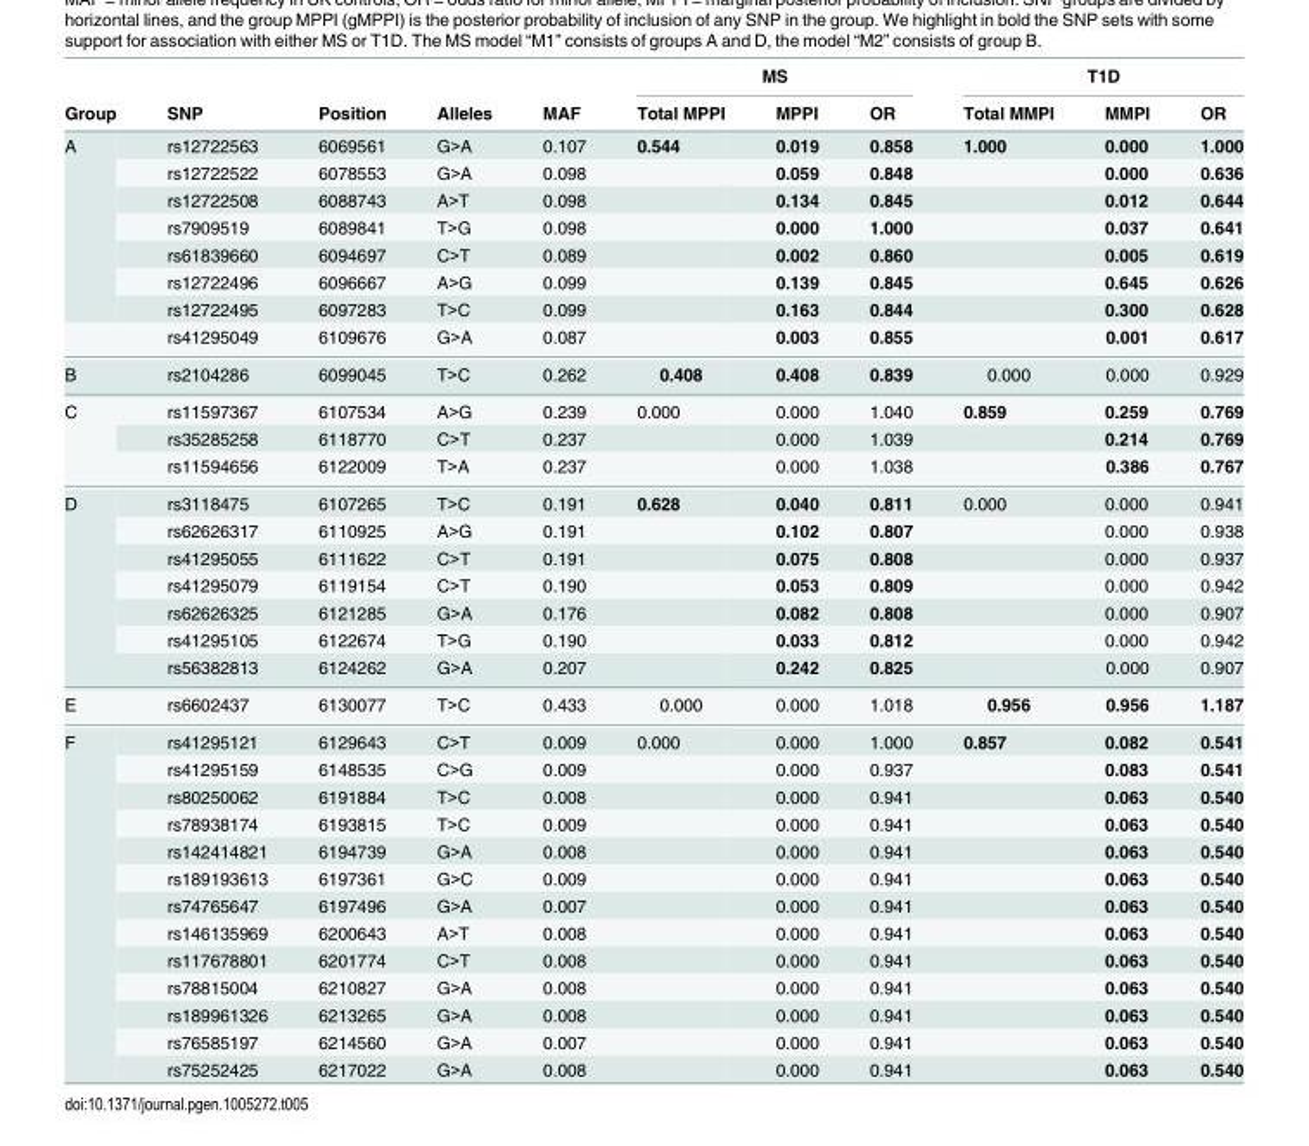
<table><thead><tr><td rowspan="2">Group</td><td rowspan="2">SNP</td><td rowspan="2">Position</td><td rowspan="2">Alleles</td><td rowspan="2">MAF</td><td colspan="3">MS</td><td colspan="3">T1D</td></tr><tr><td>Total MPPI</td><td>MPPI</td><td>OR</td><td>Total MMPI</td><td>MMPI</td><td>OR</td></tr></thead><tbody><tr><td rowspan="8">A</td><td>rs12722563</td><td>6069561</td><td>G&gt;A</td><td>0.107</td><td>0.544</td><td>0.019</td><td>0.858</td><td>1.000</td><td>0.000</td><td>1.000</td></tr><tr><td>rs12722522</td><td>6078553</td><td>G&gt;A</td><td>0.098</td><td></td><td>0.059</td><td>0.848</td><td></td><td>0.000</td><td>0.636</td></tr><tr><td>rs12722508</td><td>6088743</td><td>A&gt;T</td><td>0.098</td><td></td><td>0.134</td><td>0.845</td><td></td><td>0.012</td><td>0.644</td></tr><tr><td>rs7909519</td><td>6089841</td><td>T&gt;G</td><td>0.098</td><td></td><td>0.000</td><td>1.000</td><td></td><td>0.037</td><td>0.641</td></tr><tr><td>rs61839660</td><td>6094697</td><td>C&gt;T</td><td>0.089</td><td></td><td>0.002</td><td>0.860</td><td></td><td>0.005</td><td>0.619</td></tr><tr><td>rs12722496</td><td>6096667</td><td>A&gt;G</td><td>0.099</td><td></td><td>0.139</td><td>0.845</td><td></td><td>0.645</td><td>0.626</td></tr><tr><td>rs12722495</td><td>6097283</td><td>T&gt;C</td><td>0.099</td><td></td><td>0.163</td><td>0.844</td><td></td><td>0.300</td><td>0.628</td></tr><tr><td>rs41295049</td><td>6109676</td><td>G&gt;A</td><td>0.087</td><td></td><td>0.003</td><td>0.855</td><td></td><td>0.001</td><td>0.617</td></tr><tr><td>B</td><td>rs2104286</td><td>6099045</td><td>T&gt;C</td><td>0.262</td><td>0.408</td><td>0.408</td><td>0.839</td><td>0.000</td><td>0.000</td><td>0.929</td></tr><tr><td rowspan="3">C</td><td>rs11597367</td><td>6107534</td><td>A&gt;G</td><td>0.239</td><td>0.000</td><td>0.000</td><td>1.040</td><td>0.859</td><td>0.259</td><td>0.769</td></tr><tr><td>rs35285258</td><td>6118770</td><td>C&gt;T</td><td>0.237</td><td></td><td>0.000</td><td>1.039</td><td></td><td>0.214</td><td>0.769</td></tr><tr><td>rs11594656</td><td>6122009</td><td>T&gt;A</td><td>0.237</td><td></td><td>0.000</td><td>1.038</td><td></td><td>0.386</td><td>0.767</td></tr><tr><td rowspan="7">D</td><td>rs3118475</td><td>6107265</td><td>T&gt;C</td><td>0.191</td><td>0.628</td><td>0.040</td><td>0.811</td><td>0.000</td><td>0.000</td><td>0.941</td></tr><tr><td>rs62626317</td><td>6110925</td><td>A&gt;G</td><td>0.191</td><td></td><td>0.102</td><td>0.807</td><td></td><td>0.000</td><td>0.938</td></tr><tr><td>rs41295055</td><td>6111622</td><td>C&gt;T</td><td>0.191</td><td></td><td>0.075</td><td>0.808</td><td></td><td>0.000</td><td>0.937</td></tr><tr><td>rs41295079</td><td>6119154</td><td>C&gt;T</td><td>0.190</td><td></td><td>0.053</td><td>0.809</td><td></td><td>0.000</td><td>0.942</td></tr><tr><td>rs62626325</td><td>6121285</td><td>G&gt;A</td><td>0.176</td><td></td><td>0.082</td><td>0.808</td><td></td><td>0.000</td><td>0.907</td></tr><tr><td>rs41295105</td><td>6122674</td><td>T&gt;G</td><td>0.190</td><td></td><td>0.033</td><td>0.812</td><td></td><td>0.000</td><td>0.942</td></tr><tr><td>rs56382813</td><td>6124262</td><td>G&gt;A</td><td>0.207</td><td></td><td>0.242</td><td>0.825</td><td></td><td>0.000</td><td>0.907</td></tr><tr><td>E</td><td>rs6602437</td><td>6130077</td><td>T&gt;C</td><td>0.433</td><td>0.000</td><td>0.000</td><td>1.018</td><td>0.956</td><td>0.956</td><td>1.187</td></tr><tr><td rowspan="13">F</td><td>rs41295121</td><td>6129643</td><td>C&gt;T</td><td>0.009</td><td>0.000</td><td>0.000</td><td>1.000</td><td>0.857</td><td>0.082</td><td>0.541</td></tr><tr><td>rs41295159</td><td>6148535</td><td>C&gt;G</td><td>0.009</td><td></td><td>0.000</td><td>0.937</td><td></td><td>0.083</td><td>0.541</td></tr><tr><td>rs80250062</td><td>6191884</td><td>T&gt;C</td><td>0.008</td><td></td><td>0.000</td><td>0.941</td><td></td><td>0.063</td><td>0.540</td></tr><tr><td>rs78938174</td><td>6193815</td><td>T&gt;C</td><td>0.009</td><td></td><td>0.000</td><td>0.941</td><td></td><td>0.063</td><td>0.540</td></tr><tr><td>rs142414821</td><td>6194739</td><td>G&gt;A</td><td>0.008</td><td></td><td>0.000</td><td>0.941</td><td></td><td>0.063</td><td>0.540</td></tr><tr><td>rs189193613</td><td>6197361</td><td>G&gt;C</td><td>0.009</td><td></td><td>0.000</td><td>0.941</td><td></td><td>0.063</td><td>0.540</td></tr><tr><td>rs74765647</td><td>6197496</td><td>G&gt;A</td><td>0.007</td><td></td><td>0.000</td><td>0.941</td><td></td><td>0.063</td><td>0.540</td></tr><tr><td>rs146135969</td><td>6200643</td><td>A&gt;T</td><td>0.008</td><td></td><td>0.000</td><td>0.941</td><td></td><td>0.063</td><td>0.540</td></tr><tr><td>rs117678801</td><td>6201774</td><td>C&gt;T</td><td>0.008</td><td></td><td>0.000</td><td>0.941</td><td></td><td>0.063</td><td>0.540</td></tr><tr><td>rs78815004</td><td>6210827</td><td>G&gt;A</td><td>0.008</td><td></td><td>0.000</td><td>0.941</td><td></td><td>0.063</td><td>0.540</td></tr><tr><td>rs189961326</td><td>6213265</td><td>G&gt;A</td><td>0.008</td><td></td><td>0.000</td><td>0.941</td><td></td><td>0.063</td><td>0.540</td></tr><tr><td>rs76585197</td><td>6214560</td><td>G&gt;A</td><td>0.007</td><td></td><td>0.000</td><td>0.941</td><td></td><td>0.063</td><td>0.540</td></tr><tr><td>rs75252425</td><td>6217022</td><td>G&gt;A</td><td>0.008</td><td></td><td>0.000</td><td>0.941</td><td></td><td>0.063</td><td>0.540</td></tr></tbody></table>